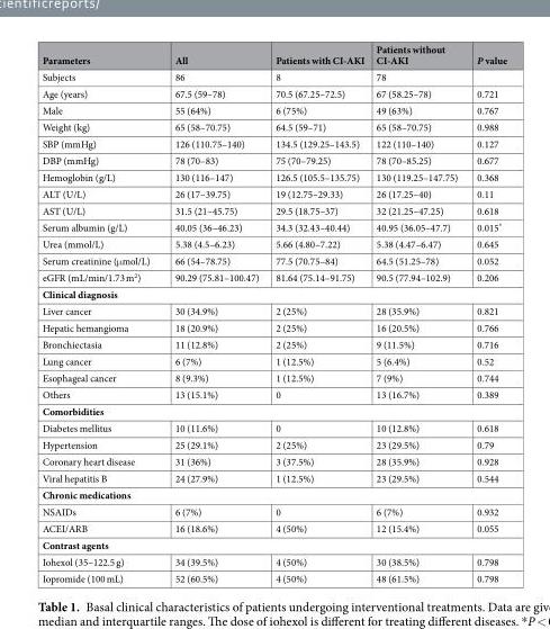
<table><thead><tr><td>Parameters</td><td>All</td><td>Patients with CI-AKI</td><td>Patients without CI-AKI</td><td>P value</td></tr></thead><tbody><tr><td>Subjects</td><td>86</td><td>8</td><td>78</td><td></td></tr><tr><td>Age (years)</td><td>67.5 (59–78)</td><td>70.5 (67.25–72.5)</td><td>67 (58.25–78)</td><td>0.721</td></tr><tr><td>Male</td><td>55 (64%)</td><td>6 (75%)</td><td>49 (63%)</td><td>0.767</td></tr><tr><td>Weight (kg)</td><td>65 (58–70.75)</td><td>64.5 (59–71)</td><td>65 (58–70.75)</td><td>0.988</td></tr><tr><td>SBP (mmHg)</td><td>126 (110.75–140)</td><td>134.5 (129.25–143.5)</td><td>122 (110–140)</td><td>0.127</td></tr><tr><td>DBP (mmHg)</td><td>78 (70–83)</td><td>75 (70–79.25)</td><td>78 (70–85.25)</td><td>0.677</td></tr><tr><td>Hemoglobin (g/L)</td><td>130 (116–147)</td><td>126.5 (105.5–135.75)</td><td>130 (119.25–147.75)</td><td>0.368</td></tr><tr><td>ALT (U/L)</td><td>26 (17–39.75)</td><td>19 (12.75–29.33)</td><td>26 (17.25–40)</td><td>0.11</td></tr><tr><td>AST (U/L)</td><td>31.5 (21–45.75)</td><td>29.5 (18.75–37)</td><td>32 (21.25–47.25)</td><td>0.618</td></tr><tr><td>Serum albumin (g/L)</td><td>40.05 (36–46.23)</td><td>34.3 (32.43–40.44)</td><td>40.95 (36.05–47.7)</td><td>0.015*</td></tr><tr><td>Urea (mmol/L)</td><td>5.38 (4.5–6.23)</td><td>5.66 (4.80–7.22)</td><td>5.38 (4.47–6.47)</td><td>0.645</td></tr><tr><td>Serum creatinine (μmol/L)</td><td>66 (54–78.75)</td><td>77.5 (70.75–84)</td><td>64.5 (51.25–78)</td><td>0.052</td></tr><tr><td>eGFR (mL/min/1.73 m<sup>2</sup>)</td><td>90.29 (75.81–100.47)</td><td>81.64 (75.14–91.75)</td><td>90.5 (77.94–102.9)</td><td>0.206</td></tr><tr><td colspan="5">Clinical diagnosis</td></tr><tr><td>Liver cancer</td><td>30 (34.9%)</td><td>2 (25%)</td><td>28 (35.9%)</td><td>0.821</td></tr><tr><td>Hepatic hemangioma</td><td>18 (20.9%)</td><td>2 (25%)</td><td>16 (20.5%)</td><td>0.766</td></tr><tr><td>Bronchiectasia</td><td>11 (12.8%)</td><td>2 (25%)</td><td>9 (11.5%)</td><td>0.716</td></tr><tr><td>Lung cancer</td><td>6 (7%)</td><td>1 (12.5%)</td><td>5 (6.4%)</td><td>0.52</td></tr><tr><td>Esophageal cancer</td><td>8 (9.3%)</td><td>1 (12.5%)</td><td>7 (9%)</td><td>0.744</td></tr><tr><td>Others</td><td>13 (15.1%)</td><td>0</td><td>13 (16.7%)</td><td>0.389</td></tr><tr><td colspan="5">Comorbidities</td></tr><tr><td>Diabetes mellitus</td><td>10 (11.6%)</td><td>0</td><td>10 (12.8%)</td><td>0.618</td></tr><tr><td>Hypertension</td><td>25 (29.1%)</td><td>2 (25%)</td><td>23 (29.5%)</td><td>0.79</td></tr><tr><td>Coronary heart disease</td><td>31 (36%)</td><td>3 (37.5%)</td><td>28 (35.9%)</td><td>0.928</td></tr><tr><td>Viral hepatitis B</td><td>24 (27.9%)</td><td>1 (12.5%)</td><td>23 (29.5%)</td><td>0.544</td></tr><tr><td colspan="5">Chronic medications</td></tr><tr><td>NSAIDs</td><td>6 (7%)</td><td>0</td><td>6 (7%)</td><td>0.932</td></tr><tr><td>ACEI/ARB</td><td>16 (18.6%)</td><td>4 (50%)</td><td>12 (15.4%)</td><td>0.055</td></tr><tr><td colspan="5">Contrast agents</td></tr><tr><td>Iohexol (35–122.5 g)</td><td>34 (39.5%)</td><td>4 (50%)</td><td>30 (38.5%)</td><td>0.798</td></tr><tr><td>Iopromide (100 mL)</td><td>52 (60.5%)</td><td>4 (50%)</td><td>48 (61.5%)</td><td>0.798</td></tr></tbody></table>